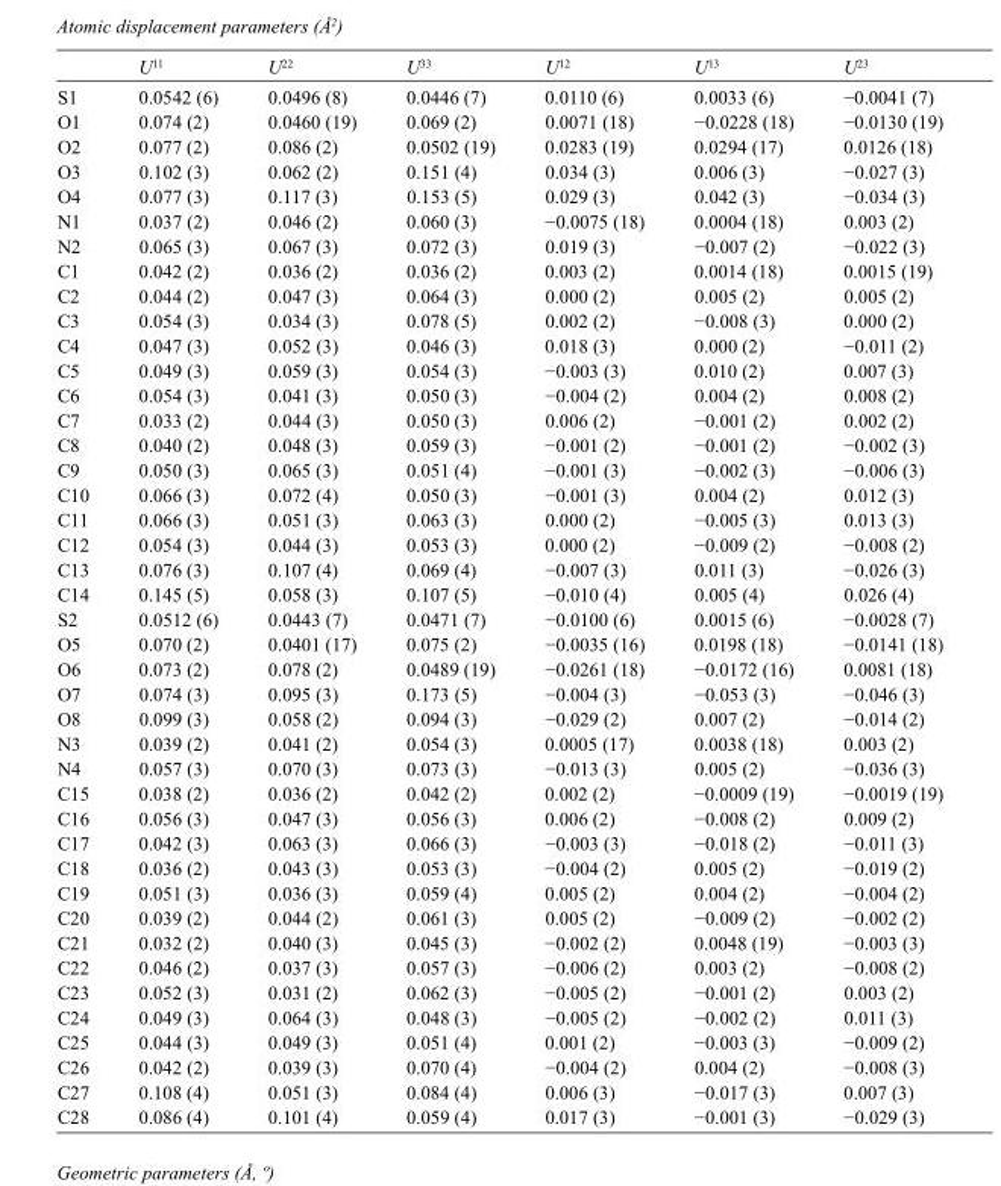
<table><thead><tr><td></td><td>U<sup>11</sup></td><td>U<sup>22</sup></td><td>U<sup>33</sup></td><td>U<sup>12</sup></td><td>U<sup>13</sup></td><td>U<sup>23</sup></td></tr></thead><tbody><tr><td>S1</td><td>0.0542 (6)</td><td>0.0496 (8)</td><td>0.0446 (7)</td><td>0.0110 (6)</td><td>0.0033 (6)</td><td>−0.0041 (7)</td></tr><tr><td>O1</td><td>0.074 (2)</td><td>0.0460 (19)</td><td>0.069 (2)</td><td>0.0071 (18)</td><td>−0.0228 (18)</td><td>−0.0130 (19)</td></tr><tr><td>O2</td><td>0.077 (2)</td><td>0.086 (2)</td><td>0.0502 (19)</td><td>0.0283 (19)</td><td>0.0294 (17)</td><td>0.0126 (18)</td></tr><tr><td>O3</td><td>0.102 (3)</td><td>0.062 (2)</td><td>0.151 (4)</td><td>0.034 (3)</td><td>0.006 (3)</td><td>−0.027 (3)</td></tr><tr><td>O4</td><td>0.077 (3)</td><td>0.117 (3)</td><td>0.153 (5)</td><td>0.029 (3)</td><td>0.042 (3)</td><td>−0.034 (3)</td></tr><tr><td>N1</td><td>0.037 (2)</td><td>0.046 (2)</td><td>0.060 (3)</td><td>−0.0075 (18)</td><td>0.0004 (18)</td><td>0.003 (2)</td></tr><tr><td>N2</td><td>0.065 (3)</td><td>0.067 (3)</td><td>0.072 (3)</td><td>0.019 (3)</td><td>−0.007 (2)</td><td>−0.022 (3)</td></tr><tr><td>C1</td><td>0.042 (2)</td><td>0.036 (2)</td><td>0.036 (2)</td><td>0.003 (2)</td><td>0.0014 (18)</td><td>0.0015 (19)</td></tr><tr><td>C2</td><td>0.044 (2)</td><td>0.047 (3)</td><td>0.064 (3)</td><td>0.000 (2)</td><td>0.005 (2)</td><td>0.005 (2)</td></tr><tr><td>C3</td><td>0.054 (3)</td><td>0.034 (3)</td><td>0.078 (5)</td><td>0.002 (2)</td><td>−0.008 (3)</td><td>0.000 (2)</td></tr><tr><td>C4</td><td>0.047 (3)</td><td>0.052 (3)</td><td>0.046 (3)</td><td>0.018 (3)</td><td>0.000 (2)</td><td>−0.011 (2)</td></tr><tr><td>C5</td><td>0.049 (3)</td><td>0.059 (3)</td><td>0.054 (3)</td><td>−0.003 (3)</td><td>0.010 (2)</td><td>0.007 (3)</td></tr><tr><td>C6</td><td>0.054 (3)</td><td>0.041 (3)</td><td>0.050 (3)</td><td>−0.004 (2)</td><td>0.004 (2)</td><td>0.008 (2)</td></tr><tr><td>C7</td><td>0.033 (2)</td><td>0.044 (3)</td><td>0.050 (3)</td><td>0.006 (2)</td><td>−0.001 (2)</td><td>0.002 (2)</td></tr><tr><td>C8</td><td>0.040 (2)</td><td>0.048 (3)</td><td>0.059 (3)</td><td>−0.001 (2)</td><td>−0.001 (2)</td><td>−0.002 (3)</td></tr><tr><td>C9</td><td>0.050 (3)</td><td>0.065 (3)</td><td>0.051 (4)</td><td>−0.001 (3)</td><td>−0.002 (3)</td><td>−0.006 (3)</td></tr><tr><td>C10</td><td>0.066 (3)</td><td>0.072 (4)</td><td>0.050 (3)</td><td>−0.001 (3)</td><td>0.004 (2)</td><td>0.012 (3)</td></tr><tr><td>C11</td><td>0.066 (3)</td><td>0.051 (3)</td><td>0.063 (3)</td><td>0.000 (2)</td><td>−0.005 (3)</td><td>0.013 (3)</td></tr><tr><td>C12</td><td>0.054 (3)</td><td>0.044 (3)</td><td>0.053 (3)</td><td>0.000 (2)</td><td>−0.009 (2)</td><td>−0.008 (2)</td></tr><tr><td>C13</td><td>0.076 (3)</td><td>0.107 (4)</td><td>0.069 (4)</td><td>−0.007 (3)</td><td>0.011 (3)</td><td>−0.026 (3)</td></tr><tr><td>C14</td><td>0.145 (5)</td><td>0.058 (3)</td><td>0.107 (5)</td><td>−0.010 (4)</td><td>0.005 (4)</td><td>0.026 (4)</td></tr><tr><td>S2</td><td>0.0512 (6)</td><td>0.0443 (7)</td><td>0.0471 (7)</td><td>−0.0100 (6)</td><td>0.0015 (6)</td><td>−0.0028 (7)</td></tr><tr><td>O5</td><td>0.070 (2)</td><td>0.0401 (17)</td><td>0.075 (2)</td><td>−0.0035 (16)</td><td>0.0198 (18)</td><td>−0.0141 (18)</td></tr><tr><td>O6</td><td>0.073 (2)</td><td>0.078 (2)</td><td>0.0489 (19)</td><td>−0.0261 (18)</td><td>−0.0172 (16)</td><td>0.0081 (18)</td></tr><tr><td>O7</td><td>0.074 (3)</td><td>0.095 (3)</td><td>0.173 (5)</td><td>−0.004 (3)</td><td>−0.053 (3)</td><td>−0.046 (3)</td></tr><tr><td>O8</td><td>0.099 (3)</td><td>0.058 (2)</td><td>0.094 (3)</td><td>−0.029 (2)</td><td>0.007 (2)</td><td>−0.014 (2)</td></tr><tr><td>N3</td><td>0.039 (2)</td><td>0.041 (2)</td><td>0.054 (3)</td><td>0.0005 (17)</td><td>0.0038 (18)</td><td>0.003 (2)</td></tr><tr><td>N4</td><td>0.057 (3)</td><td>0.070 (3)</td><td>0.073 (3)</td><td>−0.013 (3)</td><td>0.005 (2)</td><td>−0.036 (3)</td></tr><tr><td>C15</td><td>0.038 (2)</td><td>0.036 (2)</td><td>0.042 (2)</td><td>0.002 (2)</td><td>−0.0009 (19)</td><td>−0.0019 (19)</td></tr><tr><td>C16</td><td>0.056 (3)</td><td>0.047 (3)</td><td>0.056 (3)</td><td>0.006 (2)</td><td>−0.008 (2)</td><td>0.009 (2)</td></tr><tr><td>C17</td><td>0.042 (3)</td><td>0.063 (3)</td><td>0.066 (3)</td><td>−0.003 (3)</td><td>−0.018 (2)</td><td>−0.011 (3)</td></tr><tr><td>C18</td><td>0.036 (2)</td><td>0.043 (3)</td><td>0.053 (3)</td><td>−0.004 (2)</td><td>0.005 (2)</td><td>−0.019 (2)</td></tr><tr><td>C19</td><td>0.051 (3)</td><td>0.036 (3)</td><td>0.059 (4)</td><td>0.005 (2)</td><td>0.004 (2)</td><td>−0.004 (2)</td></tr><tr><td>C20</td><td>0.039 (2)</td><td>0.044 (2)</td><td>0.061 (3)</td><td>0.005 (2)</td><td>−0.009 (2)</td><td>−0.002 (2)</td></tr><tr><td>C21</td><td>0.032 (2)</td><td>0.040 (3)</td><td>0.045 (3)</td><td>−0.002 (2)</td><td>0.0048 (19)</td><td>−0.003 (3)</td></tr><tr><td>C22</td><td>0.046 (2)</td><td>0.037 (3)</td><td>0.057 (3)</td><td>−0.006 (2)</td><td>0.003 (2)</td><td>−0.008 (2)</td></tr><tr><td>C23</td><td>0.052 (3)</td><td>0.031 (2)</td><td>0.062 (3)</td><td>−0.005 (2)</td><td>−0.001 (2)</td><td>0.003 (2)</td></tr><tr><td>C24</td><td>0.049 (3)</td><td>0.064 (3)</td><td>0.048 (3)</td><td>−0.005 (2)</td><td>−0.002 (2)</td><td>0.011 (3)</td></tr><tr><td>C25</td><td>0.044 (3)</td><td>0.049 (3)</td><td>0.051 (4)</td><td>0.001 (2)</td><td>−0.003 (3)</td><td>−0.009 (2)</td></tr><tr><td>C26</td><td>0.042 (2)</td><td>0.039 (3)</td><td>0.070 (4)</td><td>−0.004 (2)</td><td>0.004 (2)</td><td>−0.008 (3)</td></tr><tr><td>C27</td><td>0.108 (4)</td><td>0.051 (3)</td><td>0.084 (4)</td><td>0.006 (3)</td><td>−0.017 (3)</td><td>0.007 (3)</td></tr><tr><td>C28</td><td>0.086 (4)</td><td>0.101 (4)</td><td>0.059 (4)</td><td>0.017 (3)</td><td>−0.001 (3)</td><td>−0.029 (3)</td></tr></tbody></table>